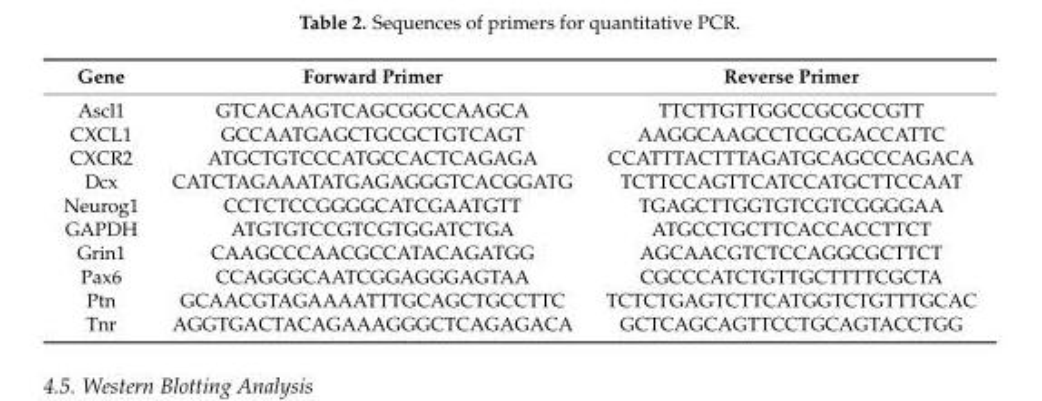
<table><thead><tr><td>Gene</td><td>Forward Primer</td><td>Reverse Primer</td></tr></thead><tbody><tr><td>Ascl1</td><td>GTCACAAGTCAGCGGCCAAGCA</td><td>TTCTTGTTGGCCGCGCCGTT</td></tr><tr><td>CXCL1</td><td>GCCAATGAGCTGCGCTGTCAGT</td><td>AAGGCAAGCCTCGCGACCATTC</td></tr><tr><td>CXCR2</td><td>ATGCTGTCCCATGCCACTCAGAGA</td><td>CCATTTACTTTAGATGCAGCCCAGACA</td></tr><tr><td>Dcx</td><td>CATCTAGAAATATGAGAGGGTCACGGATG</td><td>TCTTCCAGTTCATCCATGCTTCCAAT</td></tr><tr><td>Neurog1</td><td>CCTCTCCGGGGCATCGAATGTT</td><td>TGAGCTTGGTGTCGTCGGGGAA</td></tr><tr><td>GAPDH</td><td>ATGTGTCCGTCGTGGATCTGA</td><td>ATGCCTGCTTCACCACCTTCT</td></tr><tr><td>Grin1</td><td>CAAGCCCAACGCCATACAGATGG</td><td>AGCAACGTCTCCAGGCGCTTCT</td></tr><tr><td>Pax6</td><td>CCAGGGCAATCGGAGGGAGTAA</td><td>CGCCCATCTGTTGCTTTTCGCTA</td></tr><tr><td>Ptn</td><td>GCAACGTAGAAAATTTGCAGCTGCCTTC</td><td>TCTCTGAGTCTTCATGGTCTGTTTGCAC</td></tr><tr><td>Tnr</td><td>AGGTGACTACAGAAAGGGCTCAGAGACA</td><td>GCTCAGCAGTTCCTGCAGTACCTGG</td></tr></tbody></table>